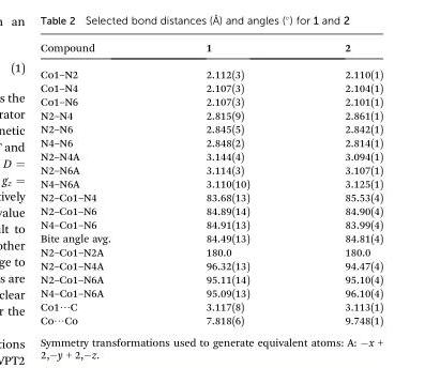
<table><thead><tr><td>Compound</td><td>1</td><td>2</td></tr></thead><tbody><tr><td>Co1–N2</td><td>2.112(3)</td><td>2.110(1)</td></tr><tr><td>Co1–N4</td><td>2.107(3)</td><td>2.104(1)</td></tr><tr><td>Co1–N6</td><td>2.107(3)</td><td>2.101(1)</td></tr><tr><td>N2–N4</td><td>2.815(9)</td><td>2.861(1)</td></tr><tr><td>N2–N6</td><td>2.845(5)</td><td>2.842(1)</td></tr><tr><td>N4–N6</td><td>2.848(2)</td><td>2.814(1)</td></tr><tr><td>N2–N4A</td><td>3.144(4)</td><td>3.094(1)</td></tr><tr><td>N2–N6A</td><td>3.114(3)</td><td>3.107(1)</td></tr><tr><td>N4–N6A</td><td>3.110(10)</td><td>3.125(1)</td></tr><tr><td>N2–Co1–N4</td><td>83.68(13)</td><td>85.53(4)</td></tr><tr><td>N2–Co1–N6</td><td>84.89(14)</td><td>84.90(4)</td></tr><tr><td>N4–Co1–N6</td><td>84.91(13)</td><td>83.99(4)</td></tr><tr><td>Bite angle avg.</td><td>84.49(13)</td><td>84.81(4)</td></tr><tr><td>N2–Co1–N2A</td><td>180.0</td><td>180.0</td></tr><tr><td>N2–Co1–N4A</td><td>96.32(13)</td><td>94.47(4)</td></tr><tr><td>N2–Co1–N6A</td><td>95.11(14)</td><td>95.10(4)</td></tr><tr><td>N4–Co1–N6A</td><td>95.09(13)</td><td>96.10(4)</td></tr><tr><td>Co1/C</td><td>3.117(8)</td><td>3.113(1)</td></tr><tr><td>Co/Co</td><td>7.818(6)</td><td>9.748(1)</td></tr></tbody></table>